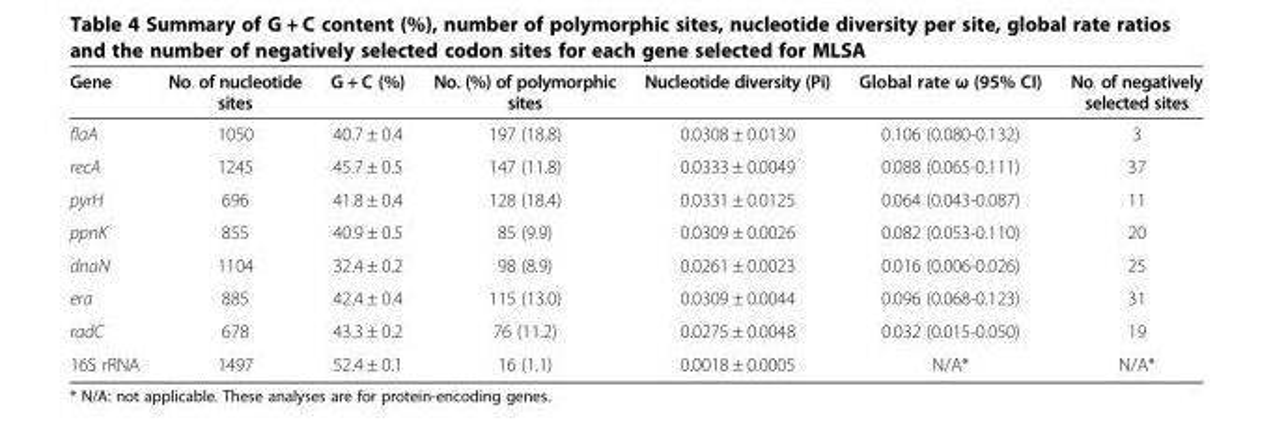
<table><thead><tr><td>Gene</td><td>No. of nucleotide sites</td><td>G + C (%)</td><td>No. (%) of polymorphic sites</td><td>Nucleotide diversity (Pi)</td><td>Global rate ω (95% CI)</td><td>No. of negatively selected sites</td></tr></thead><tbody><tr><td>flaA</td><td>1050</td><td>40.7 ± 0.4</td><td>197 (18.8)</td><td>0.0308 ± 0.0130</td><td>0.106 (0.080-0.132)</td><td>3</td></tr><tr><td>recA</td><td>1245</td><td>45.7 ± 0.5</td><td>147 (11.8)</td><td>0.0333 ± 0.0049</td><td>0.088 (0.065-0.111)</td><td>37</td></tr><tr><td>pyrH</td><td>696</td><td>41.8 ± 0.4</td><td>128 (18.4)</td><td>0.0331 ± 0.0125</td><td>0.064 (0.043-0.087)</td><td>11</td></tr><tr><td>ppnK</td><td>855</td><td>40.9 ± 0.5</td><td>85 (9.9)</td><td>0.0309 ± 0.0026</td><td>0.082 (0.053-0.110)</td><td>20</td></tr><tr><td>dnaN</td><td>1104</td><td>32.4 ± 0.2</td><td>98 (8.9)</td><td>0.0261 ± 0.0023</td><td>0.016 (0.006-0.026)</td><td>25</td></tr><tr><td>era</td><td>885</td><td>42.4 ± 0.4</td><td>115 (13.0)</td><td>0.0309 ± 0.0044</td><td>0.096 (0.068-0.123)</td><td>31</td></tr><tr><td>radC</td><td>678</td><td>43.3 ± 0.2</td><td>76 (11.2)</td><td>0.0275 ± 0.0048</td><td>0.032 (0.015-0.050)</td><td>19</td></tr><tr><td>16S rRNA</td><td>1497</td><td>52.4 ± 0.1</td><td>16 (1.1)</td><td>0.0018 ± 0.0005</td><td>N/A*</td><td>N/A*</td></tr></tbody></table>